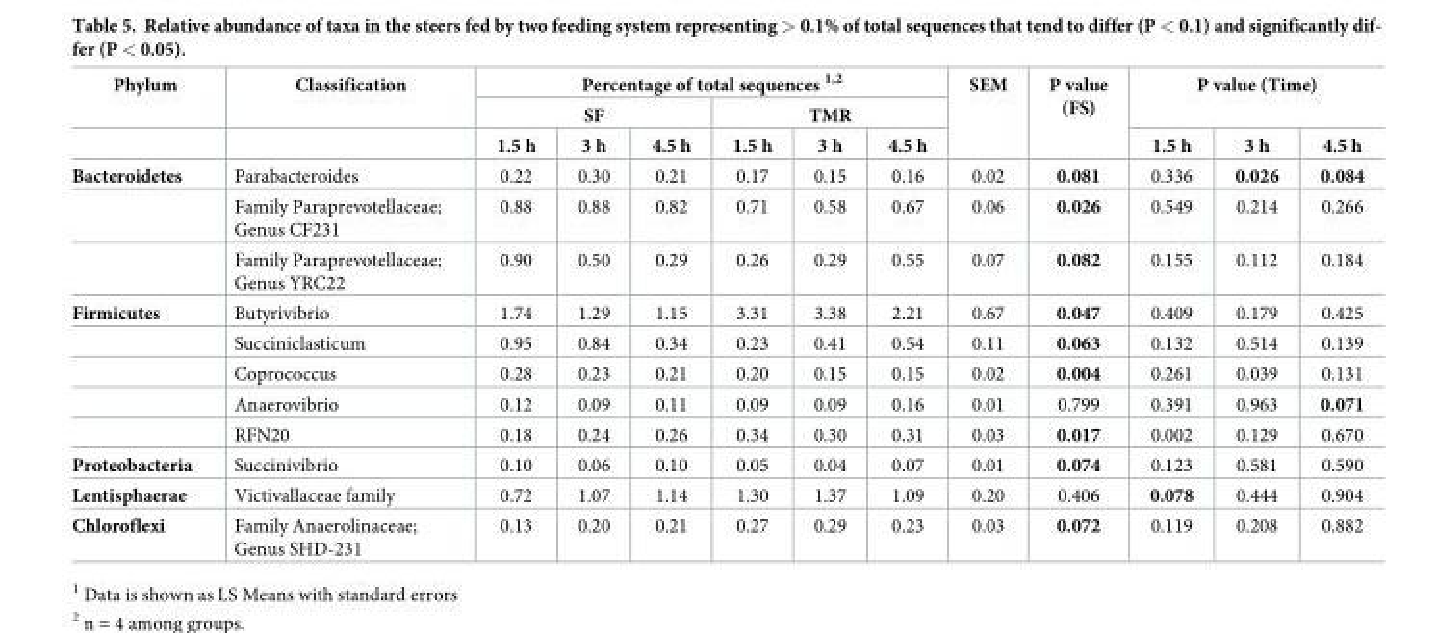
<table><thead><tr><td rowspan="3">Phylum</td><td rowspan="3">Classification</td><td colspan="6">Percentage of total sequences <sup>1,2</sup></td><td rowspan="3">SEM</td><td rowspan="3">P value (FS)</td><td rowspan="2" colspan="3">P value (Time)</td></tr><tr><td colspan="3">SF</td><td colspan="3">TMR</td></tr><tr><td>1.5 h</td><td>3 h</td><td>4.5 h</td><td>1.5 h</td><td>3 h</td><td>4.5 h</td><td>1.5 h</td><td>3 h</td><td>4.5 h</td></tr></thead><tbody><tr><td rowspan="3">Bacteroidetes</td><td>Parabacteroides</td><td>0.22</td><td>0.30</td><td>0.21</td><td>0.17</td><td>0.15</td><td>0.16</td><td>0.02</td><td>0.081</td><td>0.336</td><td>0.026</td><td>0.084</td></tr><tr><td>Family Paraprevotellaceae; Genus CF231</td><td>0.88</td><td>0.88</td><td>0.82</td><td>0.71</td><td>0.58</td><td>0.67</td><td>0.06</td><td>0.026</td><td>0.549</td><td>0.214</td><td>0.266</td></tr><tr><td>Family Paraprevotellaceae; Genus YRC22</td><td>0.90</td><td>0.50</td><td>0.29</td><td>0.26</td><td>0.29</td><td>0.55</td><td>0.07</td><td>0.082</td><td>0.155</td><td>0.112</td><td>0.184</td></tr><tr><td rowspan="5">Firmicutes</td><td>Butyrivibrio</td><td>1.74</td><td>1.29</td><td>1.15</td><td>3.31</td><td>3.38</td><td>2.21</td><td>0.67</td><td>0.047</td><td>0.409</td><td>0.179</td><td>0.425</td></tr><tr><td>Succiniclasticum</td><td>0.95</td><td>0.84</td><td>0.34</td><td>0.23</td><td>0.41</td><td>0.54</td><td>0.11</td><td>0.063</td><td>0.132</td><td>0.514</td><td>0.139</td></tr><tr><td>Coprococcus</td><td>0.28</td><td>0.23</td><td>0.21</td><td>0.20</td><td>0.15</td><td>0.15</td><td>0.02</td><td>0.004</td><td>0.261</td><td>0.039</td><td>0.131</td></tr><tr><td>Anaerovibrio</td><td>0.12</td><td>0.09</td><td>0.11</td><td>0.09</td><td>0.09</td><td>0.16</td><td>0.01</td><td>0.799</td><td>0.391</td><td>0.963</td><td>0.071</td></tr><tr><td>RFN20</td><td>0.18</td><td>0.24</td><td>0.26</td><td>0.34</td><td>0.30</td><td>0.31</td><td>0.03</td><td>0.017</td><td>0.002</td><td>0.129</td><td>0.670</td></tr><tr><td>Proteobacteria</td><td>Succinivibrio</td><td>0.10</td><td>0.06</td><td>0.10</td><td>0.05</td><td>0.04</td><td>0.07</td><td>0.01</td><td>0.074</td><td>0.123</td><td>0.581</td><td>0.590</td></tr><tr><td>Lentisphaerae</td><td>Victivallaceae family</td><td>0.72</td><td>1.07</td><td>1.14</td><td>1.30</td><td>1.37</td><td>1.09</td><td>0.20</td><td>0.406</td><td>0.078</td><td>0.444</td><td>0.904</td></tr><tr><td>Chloroflexi</td><td>Family Anaerolinaceae; Genus SHD-231</td><td>0.13</td><td>0.20</td><td>0.21</td><td>0.27</td><td>0.29</td><td>0.23</td><td>0.03</td><td>0.072</td><td>0.119</td><td>0.208</td><td>0.882</td></tr></tbody></table>